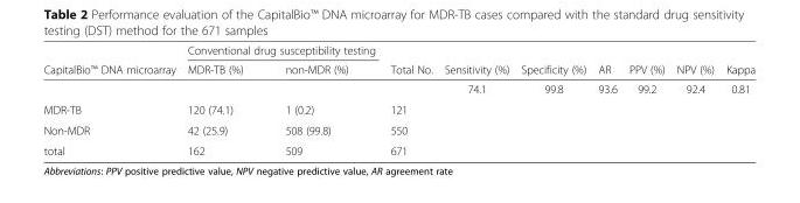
<table><thead><tr><td rowspan="2">CapitalBio™ DNA microarray</td><td colspan="2">Conventional drug susceptibility testing</td><td rowspan="2">Total No.</td><td rowspan="2">Sensitivity (%)</td><td rowspan="2">Specificity (%)</td><td rowspan="2">AR</td><td rowspan="2">PPV (%)</td><td rowspan="2">NPV (%)</td><td rowspan="2">Kappa</td></tr><tr><td>MDR-TB (%)</td><td>non-MDR (%)</td></tr></thead><tbody><tr><td></td><td></td><td></td><td></td><td>74.1</td><td>99.8</td><td>93.6</td><td>99.2</td><td>92.4</td><td>0.81</td></tr><tr><td>MDR-TB</td><td>120 (74.1)</td><td>1 (0.2)</td><td>121</td><td></td><td></td><td></td><td></td><td></td><td></td></tr><tr><td>Non-MDR</td><td>42 (25.9)</td><td>508 (99.8)</td><td>550</td><td></td><td></td><td></td><td></td><td></td><td></td></tr><tr><td>total</td><td>162</td><td>509</td><td>671</td><td></td><td></td><td></td><td></td><td></td><td></td></tr></tbody></table>